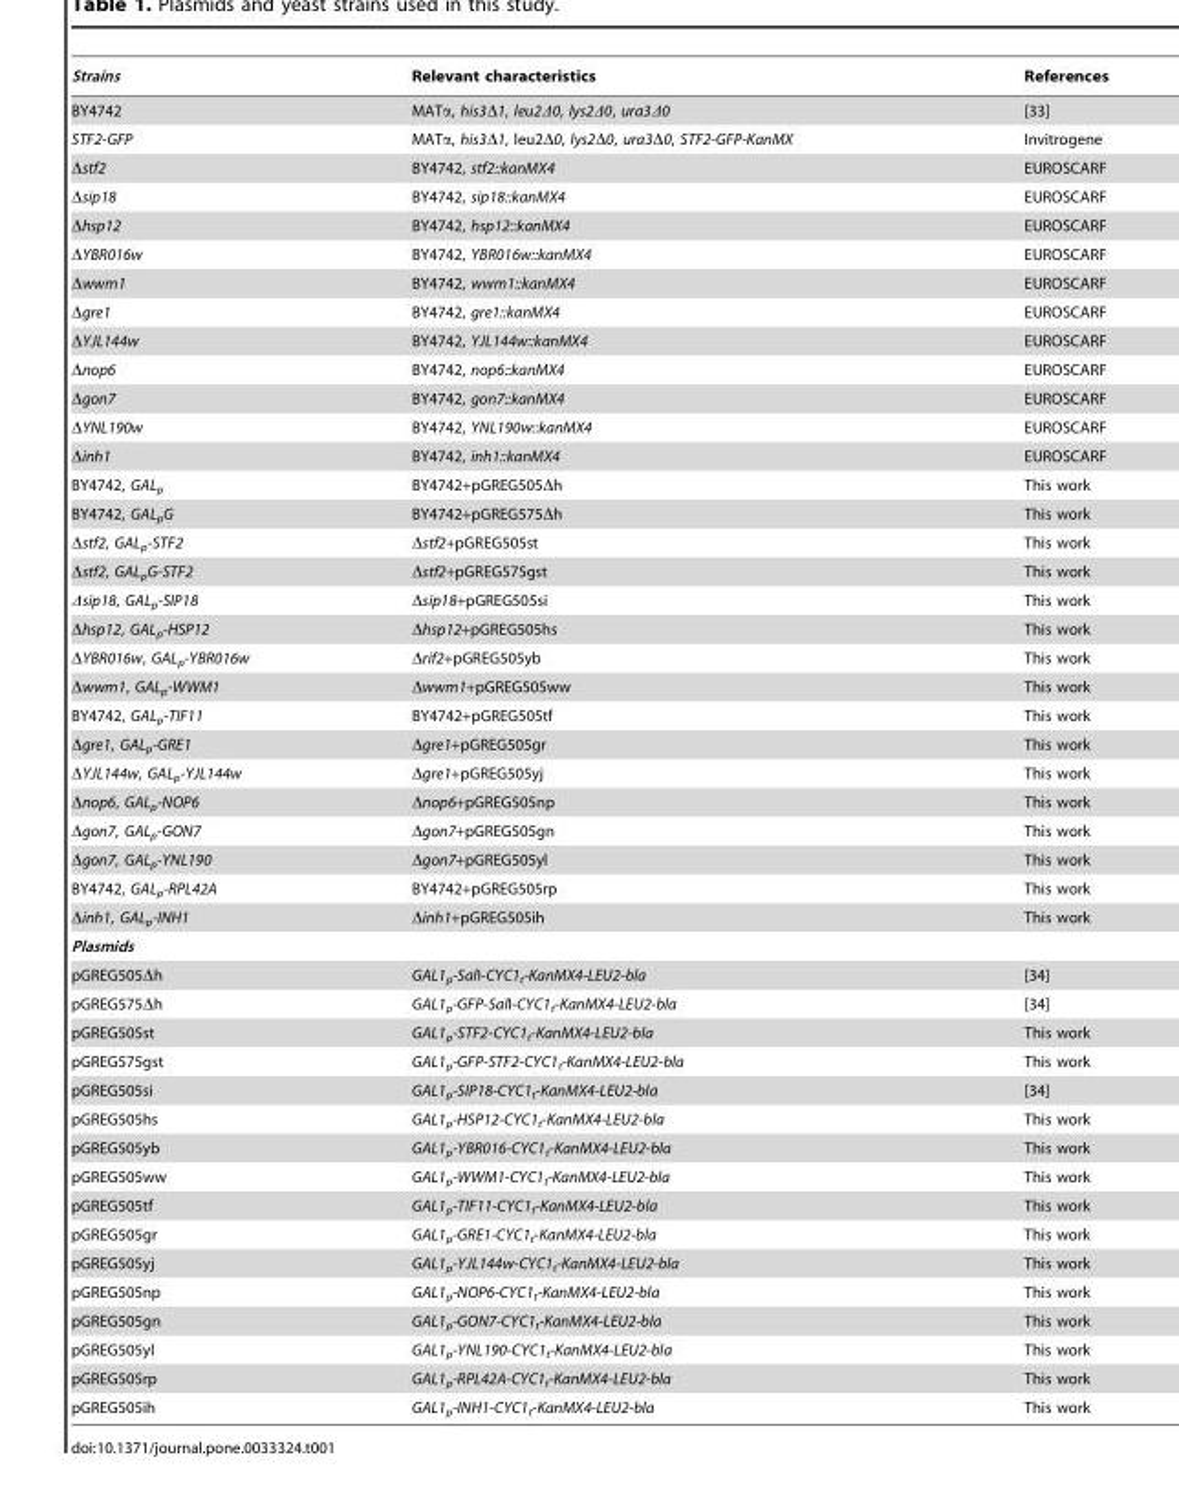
<table><thead><tr><td>Strains</td><td>Relevant characteristics</td><td>References</td></tr></thead><tbody><tr><td>BY4742</td><td>MATα, his3Δ1, leu2Δ0, lys2Δ0, ura3Δ0</td><td>[33]</td></tr><tr><td>STF2-GFP</td><td>MATα, his3Δ1, leu2Δ0, lys2Δ0, ura3Δ0, STF2-GFP-KanMX</td><td>Invitrogene</td></tr><tr><td>Δstf2</td><td>BY4742, stf2::kanMX4</td><td>EUROSCARF</td></tr><tr><td>Δsip18</td><td>BY4742, sip18::kanMX4</td><td>EUROSCARF</td></tr><tr><td>Δhsp12</td><td>BY4742, hsp12::kanMX4</td><td>EUROSCARF</td></tr><tr><td>ΔYBR016w</td><td>BY4742, YBR016w::kanMX4</td><td>EUROSCARF</td></tr><tr><td>Δwwm1</td><td>BY4742, wwm1::kanMX4</td><td>EUROSCARF</td></tr><tr><td>Δgre1</td><td>BY4742, gre1::kanMX4</td><td>EUROSCARF</td></tr><tr><td>ΔYJL144w</td><td>BY4742, YJL144w::kanMX4</td><td>EUROSCARF</td></tr><tr><td>Δnop6</td><td>BY4742, nop6::kanMX4</td><td>EUROSCARF</td></tr><tr><td>Δgon7</td><td>BY4742, gon7::kanMX4</td><td>EUROSCARF</td></tr><tr><td>ΔYNL190w</td><td>BY4742, YNL190w::kanMX4</td><td>EUROSCARF</td></tr><tr><td>Δinh1</td><td>BY4742, inh1::kanMX4</td><td>EUROSCARF</td></tr><tr><td>BY4742, GAL<sub>p</sub></td><td>BY4742+pGREG505Δh</td><td>This work</td></tr><tr><td>BY4742, GAL<sub>p</sub>G</td><td>BY4742+pGREG575Δh</td><td>This work</td></tr><tr><td>Δstf2, GAL<sub>p</sub>-STF2</td><td>Δstf2+pGREG505st</td><td>This work</td></tr><tr><td>Δstf2, GAL<sub>p</sub>G-STF2</td><td>Δstf2+pGREG575gst</td><td>This work</td></tr><tr><td>Δsip18, GAL<sub>p</sub>-SIP18</td><td>Δsip18+pGREG505si</td><td>This work</td></tr><tr><td>Δhsp12, GAL<sub>p</sub>-HSP12</td><td>Δhsp12+pGREG505hs</td><td>This work</td></tr><tr><td>ΔYBR016w, GAL<sub>p</sub>-YBR016w</td><td>Δrif2+pGREG505yb</td><td>This work</td></tr><tr><td>Δwwm1, GAL<sub>p</sub>-WWM1</td><td>Δwwm1+pGREG505ww</td><td>This work</td></tr><tr><td>BY4742, GAL<sub>p</sub>-TIF11</td><td>BY4742+pGREG505tf</td><td>This work</td></tr><tr><td>Δgre1, GAL<sub>p</sub>-GRE1</td><td>Δgre1+pGREG505gr</td><td>This work</td></tr><tr><td>ΔYJL144w, GAL<sub>p</sub>-YJL144w</td><td>Δgre1+pGREG505yj</td><td>This work</td></tr><tr><td>Δnop6, GAL<sub>p</sub>-NOP6</td><td>Δnop6+pGREG505np</td><td>This work</td></tr><tr><td>Δgon7, GAL<sub>p</sub>-GON7</td><td>Δgon7+pGREG505gn</td><td>This work</td></tr><tr><td>Δgon7, GAL<sub>p</sub>-YNL190</td><td>Δgon7+pGREG505yl</td><td>This work</td></tr><tr><td>BY4742, GAL<sub>p</sub>-RPL42A</td><td>BY4742+pGREG505rp</td><td>This work</td></tr><tr><td>Δinh1, GAL<sub>p</sub>-INH1</td><td>Δinh1+pGREG505ih</td><td>This work</td></tr><tr><td colspan="3">Plasmids</td></tr><tr><td>pGREG505Δh</td><td>GAL1<sub>p</sub>-SalI-CYC1<sub>t</sub>-KanMX4-LEU2-bla</td><td>[34]</td></tr><tr><td>pGREG575Δh</td><td>GAL1<sub>p</sub>-GFP-SalI-CYC1<sub>t</sub>-KanMX4-LEU2-bla</td><td>[34]</td></tr><tr><td>pGREG505st</td><td>GAL1<sub>p</sub>-STF2-CYC1<sub>t</sub>-KanMX4-LEU2-bla</td><td>This work</td></tr><tr><td>pGREG575gst</td><td>GAL1<sub>p</sub>-GFP-STF2-CYC1<sub>t</sub>-KanMX4-LEU2-bla</td><td>This work</td></tr><tr><td>pGREG505si</td><td>GAL1<sub>p</sub>-SIP18-CYC1<sub>t</sub>-KanMX4-LEU2-bla</td><td>[34]</td></tr><tr><td>pGREG505hs</td><td>GAL1<sub>p</sub>-HSP12-CYC1<sub>t</sub>-KanMX4-LEU2-bla</td><td>This work</td></tr><tr><td>pGREG505yb</td><td>GAL1<sub>p</sub>-YBR016-CYC1<sub>t</sub>-KanMX4-LEU2-bla</td><td>This work</td></tr><tr><td>pGREG505ww</td><td>GAL1<sub>p</sub>-WWM1-CYC1<sub>t</sub>-KanMX4-LEU2-bla</td><td>This work</td></tr><tr><td>pGREG505tf</td><td>GAL1<sub>p</sub>-TIF11-CYC1<sub>t</sub>-KanMX4-LEU2-bla</td><td>This work</td></tr><tr><td>pGREG505gr</td><td>GAL1<sub>p</sub>-GRE1-CYC1<sub>t</sub>-KanMX4-LEU2-bla</td><td>This work</td></tr><tr><td>pGREG505yj</td><td>GAL1<sub>p</sub>-YJL144w-CYC1<sub>t</sub>-KanMX4-LEU2-bla</td><td>This work</td></tr><tr><td>pGREG505np</td><td>GAL1<sub>p</sub>-NOP6-CYC1<sub>t</sub>-KanMX4-LEU2-bla</td><td>This work</td></tr><tr><td>pGREG505gn</td><td>GAL1<sub>p</sub>-GON7-CYC1<sub>t</sub>-KanMX4-LEU2-bla</td><td>This work</td></tr><tr><td>pGREG505yl</td><td>GAL1<sub>p</sub>-YNL190-CYC1<sub>t</sub>-KanMX4-LEU2-bla</td><td>This work</td></tr><tr><td>pGREG505rp</td><td>GAL1<sub>p</sub>-RPL42A-CYC1<sub>t</sub>-KanMX4-LEU2-bla</td><td>This work</td></tr><tr><td>pGREG505ih</td><td>GAL1<sub>p</sub>-INH1-CYC1<sub>t</sub>-KanMX4-LEU2-bla</td><td>This work</td></tr></tbody></table>